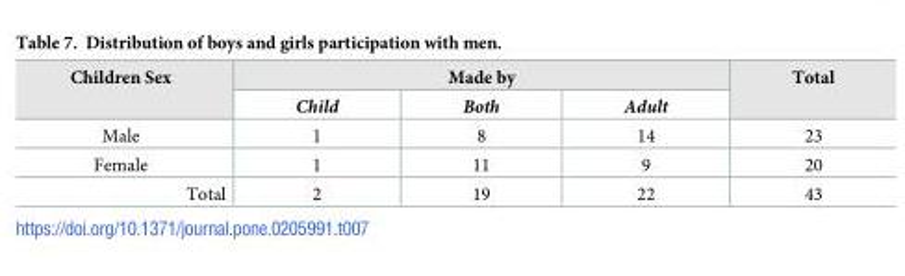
<table><thead><tr><td rowspan="2">Children Sex</td><td colspan="3">Made by</td><td rowspan="2">Total</td></tr><tr><td>Child</td><td>Both</td><td>Adult</td></tr></thead><tbody><tr><td>Male</td><td>1</td><td>8</td><td>14</td><td>23</td></tr><tr><td>Female</td><td>1</td><td>11</td><td>9</td><td>20</td></tr><tr><td>Total</td><td>2</td><td>19</td><td>22</td><td>43</td></tr></tbody></table>